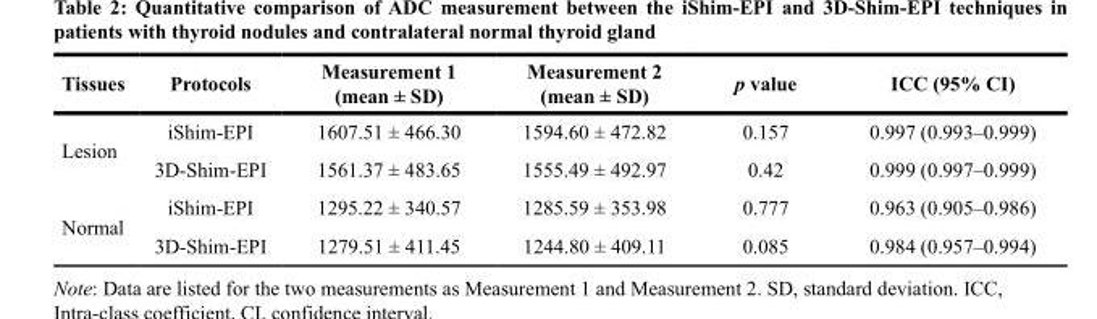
<table><thead><tr><td>Tissues</td><td>Protocols</td><td>Measurement 1 (mean ± SD)</td><td>Measurement 2 (mean ± SD)</td><td>p value</td><td>ICC (95% CI)</td></tr></thead><tbody><tr><td rowspan="2">Lesion</td><td>iShimEPI</td><td>1607.51 ± 466.30</td><td>1594.60 ± 472.82</td><td>0.157</td><td>0.997 (0.993–0.999)</td></tr><tr><td>3DShimEPI</td><td>1561.37 ± 483.65</td><td>1555.49 ± 492.97</td><td>0.42</td><td>0.999 (0.997–0.999)</td></tr><tr><td rowspan="2">Normal</td><td>iShimEPI</td><td>1295.22 ± 340.57</td><td>1285.59 ± 353.98</td><td>0.777</td><td>0.963 (0.905–0.986)</td></tr><tr><td>3DShimEPI</td><td>1279.51 ± 411.45</td><td>1244.80 ± 409.11</td><td>0.085</td><td>0.984 (0.957–0.994)</td></tr></tbody></table>